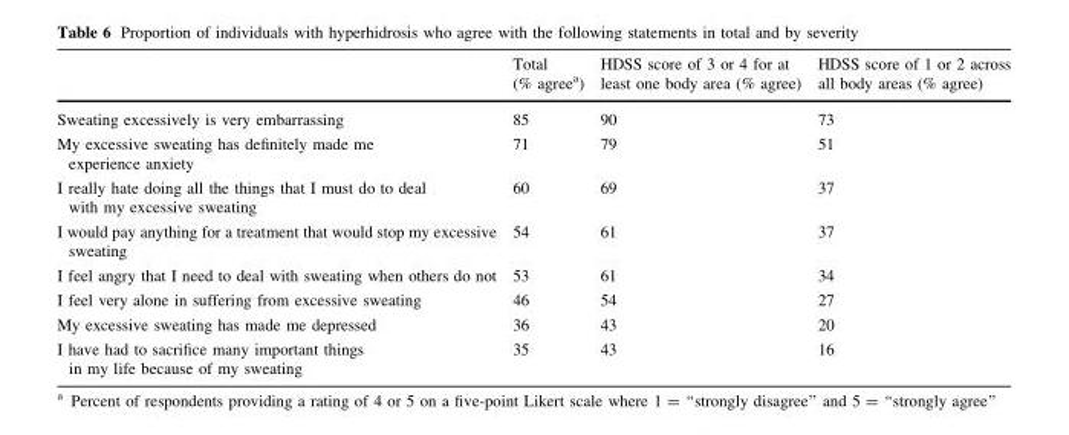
<table><thead><tr><td></td><td>Total (% agree<sup>a</sup>)</td><td>HDSS score of 3 or 4 for at least one body area (% agree)</td><td>HDSS score of 1 or 2 across all body areas (% agree)</td></tr></thead><tbody><tr><td>Sweating excessively is very embarrassing</td><td>85</td><td>90</td><td>73</td></tr><tr><td>My excessive sweating has definitely made me experience anxiety</td><td>71</td><td>79</td><td>51</td></tr><tr><td>I really hate doing all the things that I must do to deal with my excessive sweating</td><td>60</td><td>69</td><td>37</td></tr><tr><td>I would pay anything for a treatment that would stop my excessive sweating</td><td>54</td><td>61</td><td>37</td></tr><tr><td>I feel angry that I need to deal with sweating when others do not</td><td>53</td><td>61</td><td>34</td></tr><tr><td>I feel very alone in suffering from excessive sweating</td><td>46</td><td>54</td><td>27</td></tr><tr><td>My excessive sweating has made me depressed</td><td>36</td><td>43</td><td>20</td></tr><tr><td>I have had to sacrifice many important things in my life because of my sweating</td><td>35</td><td>43</td><td>16</td></tr></tbody></table>